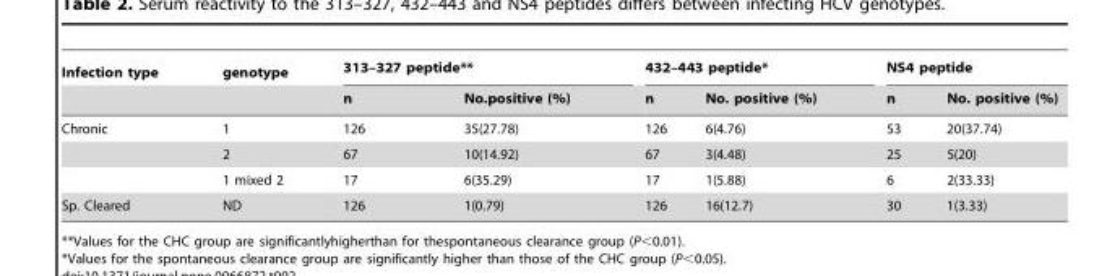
<table><thead><tr><td rowspan="2">Infection type</td><td rowspan="2">genotype</td><td colspan="2">313–327 peptide**</td><td colspan="2">432–443 peptide*</td><td colspan="2">NS4 peptide</td></tr><tr><td>n</td><td>No.positive (%)</td><td>n</td><td>No. positive (%)</td><td>n</td><td>No. positive (%)</td></tr></thead><tbody><tr><td rowspan="3">Chronic</td><td>1</td><td>126</td><td>35(27.78)</td><td>126</td><td>6(4.76)</td><td>53</td><td>20(37.74)</td></tr><tr><td>2</td><td>67</td><td>10(14.92)</td><td>67</td><td>3(4.48)</td><td>25</td><td>5(20)</td></tr><tr><td>1 mixed 2</td><td>17</td><td>6(35.29)</td><td>17</td><td>1(5.88)</td><td>6</td><td>2(33.33)</td></tr><tr><td>Sp. Cleared</td><td>ND</td><td>126</td><td>1(0.79)</td><td>126</td><td>16(12.7)</td><td>30</td><td>1(3.33)</td></tr></tbody></table>